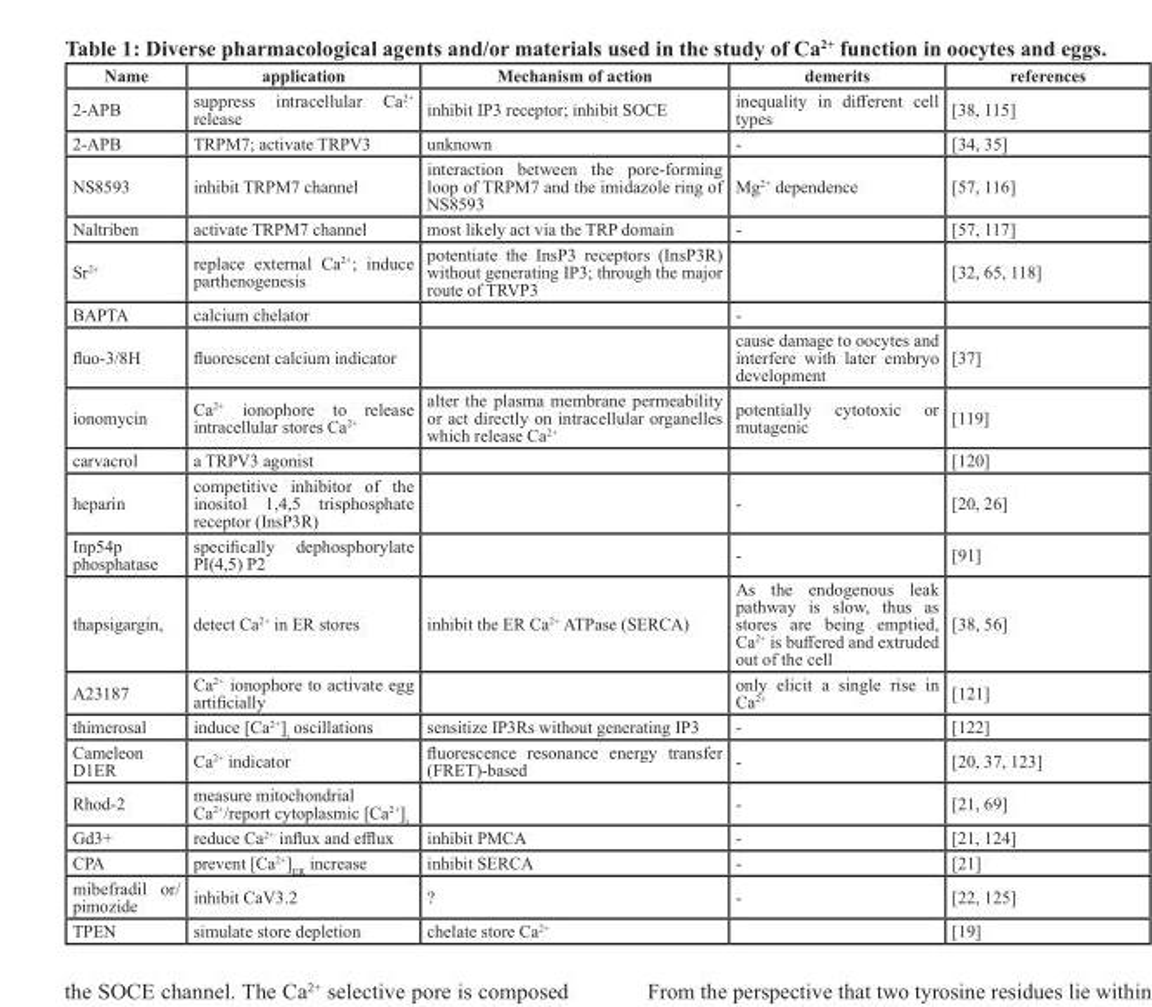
<table><thead><tr><td>Name</td><td>application</td><td>Mechanism of action</td><td>demerits</td><td>references</td></tr></thead><tbody><tr><td>2-APB</td><td>suppress intracellular Ca<sup>2+</sup> release</td><td>inhibit IP3 receptor; inhibit SOCE</td><td>inequality in different cell types</td><td>[38, 115]</td></tr><tr><td>2-APB</td><td>TRPM7; activate TRPV3</td><td>unknown</td><td>-</td><td>[34, 35]</td></tr><tr><td>NS8593</td><td>inhibit TRPM7 channel</td><td>interaction between the pore-forming loop of TRPM7 and the imidazole ring of NS8593</td><td>Mg<sup>2+</sup> dependence</td><td>[57, 116]</td></tr><tr><td>Naltriben</td><td>activate TRPM7 channel</td><td>most likely act via the TRP domain</td><td>-</td><td>[57, 117]</td></tr><tr><td>Sr<sup>2+</sup></td><td>replace external Ca<sup>2+</sup>; induce parthenogenesis</td><td>potentiate the InsP3 receptors (InsP3R) without generating IP3; through the major route of TRVP3</td><td></td><td>[32, 65, 118]</td></tr><tr><td>BAPTA</td><td>calcium chelator</td><td></td><td>-</td><td></td></tr><tr><td>fluo-3/8H</td><td>fluorescent calcium indicator</td><td></td><td>cause damage to oocytes and interfere with later embryo development</td><td>[37]</td></tr><tr><td>ionomycin</td><td>Ca<sup>2+</sup> ionophore to release intracellular stores Ca<sup>2+</sup></td><td>alter the plasma membrane permeability or act directly on intracellular organelles which release Ca<sup>2+</sup></td><td>potentially cytotoxic or mutagenic</td><td>[119]</td></tr><tr><td>carvacrol</td><td>a TRPV3 agonist</td><td></td><td></td><td>[120]</td></tr><tr><td>heparin</td><td>competitive inhibitor of the inositol 1,4,5 trisphosphate receptor (InsP3R)</td><td></td><td>-</td><td>[20, 26]</td></tr><tr><td>Inp54p phosphatase</td><td>specifically dephosphorylate PI(4,5) P2</td><td></td><td>-</td><td>[91]</td></tr><tr><td>thapsigargin,</td><td>detect Ca<sup>2+</sup> in ER stores</td><td>inhibit the ER Ca<sup>2+</sup> ATPase (SERCA)</td><td>As the endogenous leak pathway is slow, thus as stores are being emptied, Ca<sup>2+</sup> is buffered and extruded out of the cell</td><td>[38, 56]</td></tr><tr><td>A23187</td><td>Ca<sup>2+</sup> ionophore to activate egg artificially</td><td></td><td>only elicit a single rise in Ca<sup>2+</sup></td><td>[121]</td></tr><tr><td>thimerosal</td><td>induce [Ca<sup>2+</sup>]<sub>i</sub> oscillations</td><td>sensitize IP3Rs without generating IP3</td><td>-</td><td>[122]</td></tr><tr><td>Cameleon D1ER</td><td>Ca<sup>2+</sup> indicator</td><td>fluorescence resonance energy transfer (FRET)-based</td><td>-</td><td>[20, 37, 123]</td></tr><tr><td>Rhod-2</td><td>measure mitochondrial Ca<sup>2+</sup>/report cytoplasmic [Ca<sup>2+</sup>]<sub>i</sub></td><td></td><td>-</td><td>[21, 69]</td></tr><tr><td>Gd3+</td><td>reduce Ca<sup>2+</sup> influx and efflux</td><td>inhibit PMCA</td><td>-</td><td>[21, 124]</td></tr><tr><td>CPA</td><td>prevent [Ca<sup>2+</sup>]<sub>ER</sub> increase</td><td>inhibit SERCA</td><td>-</td><td>[21]</td></tr><tr><td>mibefradil or/ pimozide</td><td>inhibit CaV3.2</td><td>?</td><td>-</td><td>[22, 125]</td></tr><tr><td>TPEN</td><td>simulate store depletion</td><td>chelate store Ca<sup>2+</sup></td><td></td><td>[19]</td></tr></tbody></table>